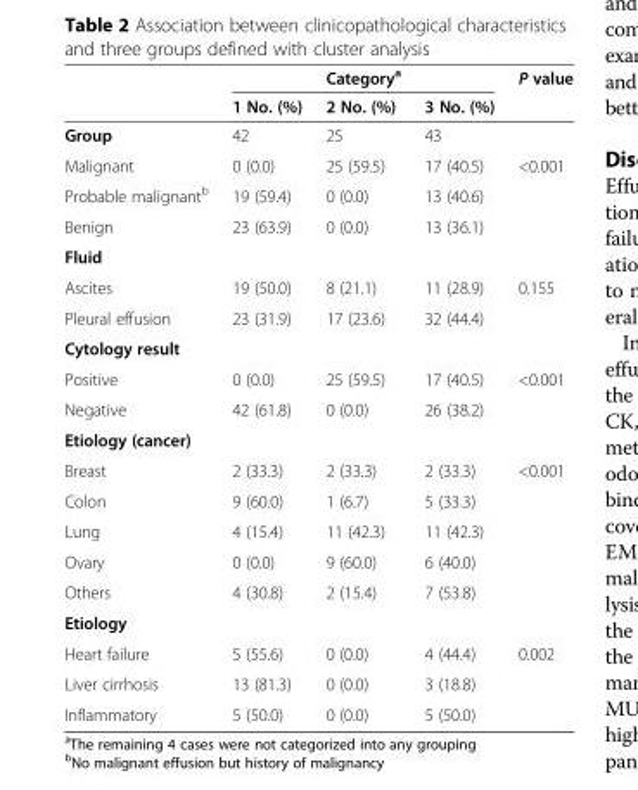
<table><thead><tr><td rowspan="2"></td><td rowspan="2">1 No. (%)</td><td rowspan="2">Category<sup>a</sup> 2 No. (%)</td><td rowspan="2">3 No. (%)</td><td rowspan="2">P value</td></tr><tr></tr></thead><tbody><tr><td>Group</td><td>42</td><td>25</td><td>43</td><td></td></tr><tr><td>Malignant</td><td>0 (0.0)</td><td>25 (59.5)</td><td>17 (40.5)</td><td>&lt;0.001</td></tr><tr><td>Probable malignant<sup>b</sup></td><td>19 (59.4)</td><td>0 (0.0)</td><td>13 (40.6)</td><td></td></tr><tr><td>Benign</td><td>23 (63.9)</td><td>0 (0.0)</td><td>13 (36.1)</td><td></td></tr><tr><td colspan="5">Fluid</td></tr><tr><td>Ascites</td><td>19 (50.0)</td><td>8 (21.1)</td><td>11 (28.9)</td><td>0.155</td></tr><tr><td>Pleural effusion</td><td>23 (31.9)</td><td>17 (23.6)</td><td>32 (44.4)</td><td></td></tr><tr><td colspan="5">Cytology result</td></tr><tr><td>Positive</td><td>0 (0.0)</td><td>25 (59.5)</td><td>17 (40.5)</td><td>&lt;0.001</td></tr><tr><td>Negative</td><td>42 (61.8)</td><td>0 (0.0)</td><td>26 (38.2)</td><td></td></tr><tr><td colspan="5">Etiology (cancer)</td></tr><tr><td>Breast</td><td>2 (33.3)</td><td>2 (33.3)</td><td>2 (33.3)</td><td>&lt;0.001</td></tr><tr><td>Colon</td><td>9 (60.0)</td><td>1 (6.7)</td><td>5 (33.3)</td><td></td></tr><tr><td>Lung</td><td>4 (15.4)</td><td>11 (42.3)</td><td>11 (42.3)</td><td></td></tr><tr><td>Ovary</td><td>0 (0.0)</td><td>9 (60.0)</td><td>6 (40.0)</td><td></td></tr><tr><td>Others</td><td>4 (30.8)</td><td>2 (15.4)</td><td>7 (53.8)</td><td></td></tr><tr><td colspan="5">Etiology</td></tr><tr><td>Heart failure</td><td>5 (55.6)</td><td>0 (0.0)</td><td>4 (44.4)</td><td>0.002</td></tr><tr><td>Liver cirrhosis</td><td>13 (81.3)</td><td>0 (0.0)</td><td>3 (18.8)</td><td></td></tr><tr><td>Inflammatory</td><td>5 (50.0)</td><td>0 (0.0)</td><td>5 (50.0)</td><td></td></tr></tbody></table>